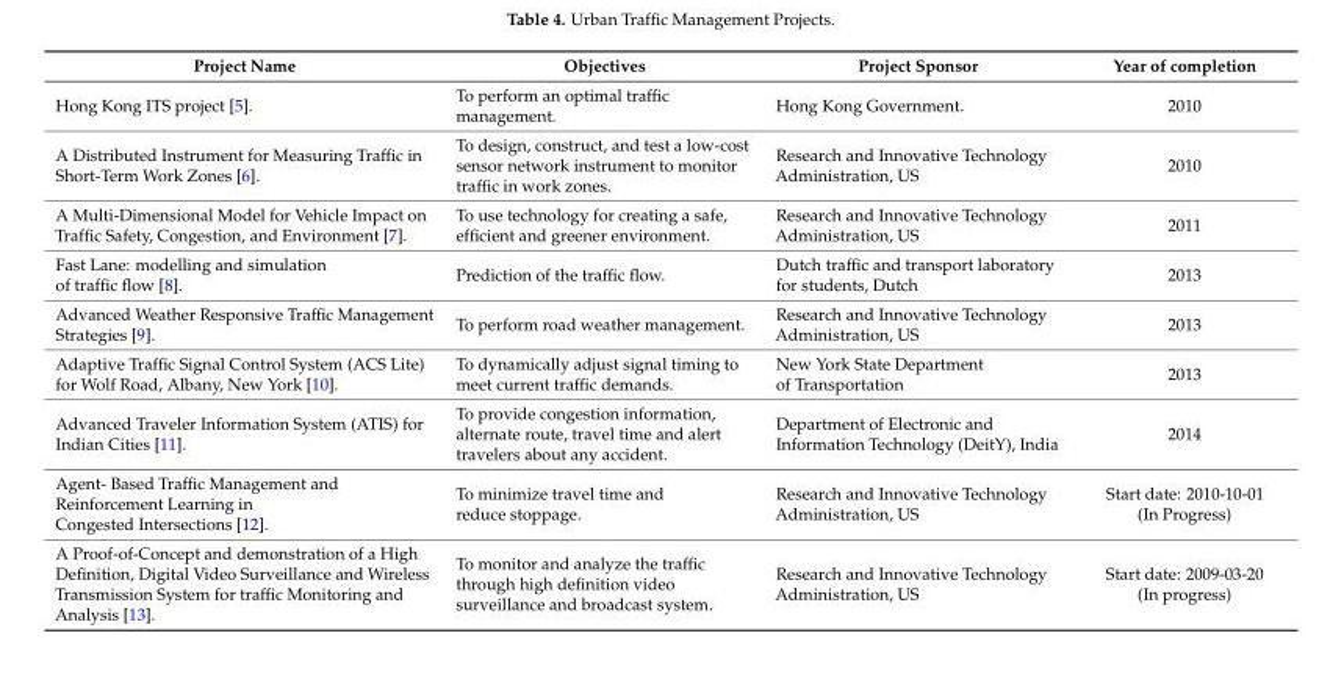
<table><thead><tr><td>Project Name</td><td>Objectives</td><td>Project Sponsor</td><td>Year of completion</td></tr></thead><tbody><tr><td>Hong Kong ITS project [5].</td><td>To perform an optimal traffic management.</td><td>Hong Kong Government.</td><td>2010</td></tr><tr><td>A Distributed Instrument for Measuring Traffic in Short-Term Work Zones [6].</td><td>To design, construct, and test a low-cost sensor network instrument to monitor traffic in work zones.</td><td>Research and Innovative Technology Administration, US</td><td>2010</td></tr><tr><td>A Multi-Dimensional Model for Vehicle Impact on Traffic Safety, Congestion, and Environment [7].</td><td>To use technology for creating a safe, efficient and greener environment.</td><td>Research and Innovative Technology Administration, US</td><td>2011</td></tr><tr><td>Fast Lane: modelling and simulation of traffic flow [8].</td><td>Prediction of the traffic flow.</td><td>Dutch traffic and transport laboratory for students, Dutch</td><td>2013</td></tr><tr><td>Advanced Weather Responsive Traffic Management Strategies [9].</td><td>To perform road weather management.</td><td>Research and Innovative Technology Administration, US</td><td>2013</td></tr><tr><td>Adaptive Traffic Signal Control System (ACS Lite) for Wolf Road, Albany, New York [10].</td><td>To dynamically adjust signal timing to meet current traffic demands.</td><td>New York State Department of Transportation</td><td>2013</td></tr><tr><td>Advanced Traveler Information System (ATIS) for Indian Cities [11].</td><td>To provide congestion information, alternate route, travel time and alert travelers about any accident.</td><td>Department of Electronic and Information Technology (DeitY), India</td><td>2014</td></tr><tr><td>Agent- Based Traffic Management and Reinforcement Learning in Congested Intersections [12].</td><td>To minimize travel time and reduce stoppage.</td><td>Research and Innovative Technology Administration, US</td><td>Start date: 2010-10-01 (In Progress)</td></tr><tr><td>A Proof-of-Concept and demonstration of a High Definition, Digital Video Surveillance and Wireless Transmission System for traffic Monitoring and Analysis [13].</td><td>To monitor and analyze the traffic through high definition video surveillance and broadcast system.</td><td>Research and Innovative Technology Administration, US</td><td>Start date: 2009-03-20 (In progress)</td></tr></tbody></table>